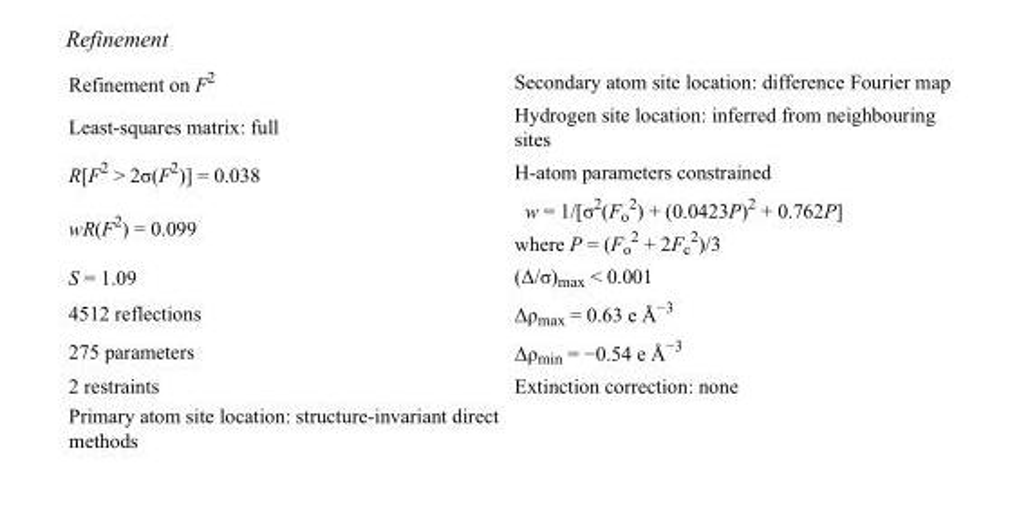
<table><tbody><tr><td>Refinement on F<sup>2</sup></td><td>Secondary atom site location: difference Fourier map</td></tr><tr><td>Least-squares matrix: full</td><td>Hydrogen site location: inferred from neighbouring sites</td></tr><tr><td>R[F<sup>2</sup> &gt; 2σ(F<sup>2</sup>)] = 0.038</td><td>H-atom parameters constrained</td></tr><tr><td>wR(F<sup>2</sup>) = 0.099</td><td>w = 1/[σ<sup>2</sup>(F<sub>o</sub> <sup>2</sup>) + (0.0423P)<sup>2</sup> + 0.762P] where P = (F<sub>o</sub> <sup>2</sup> + 2F<sub>c</sub> <sup>2</sup>)/3</td></tr><tr><td>S = 1.09</td><td>(Δ/σ)<sub>max</sub> &lt; 0.001</td></tr><tr><td>4512 reflections</td><td>Δρ<sub>max</sub> = 0.63 e Å<sup>−3</sup></td></tr><tr><td>275 parameters</td><td>Δρ<sub>min</sub> = −0.54 e Å<sup>−3</sup></td></tr><tr><td>2 restraints</td><td>Extinction correction: none</td></tr><tr><td>Primary atom site location: structure-invariant direct methods</td><td></td></tr></tbody></table>